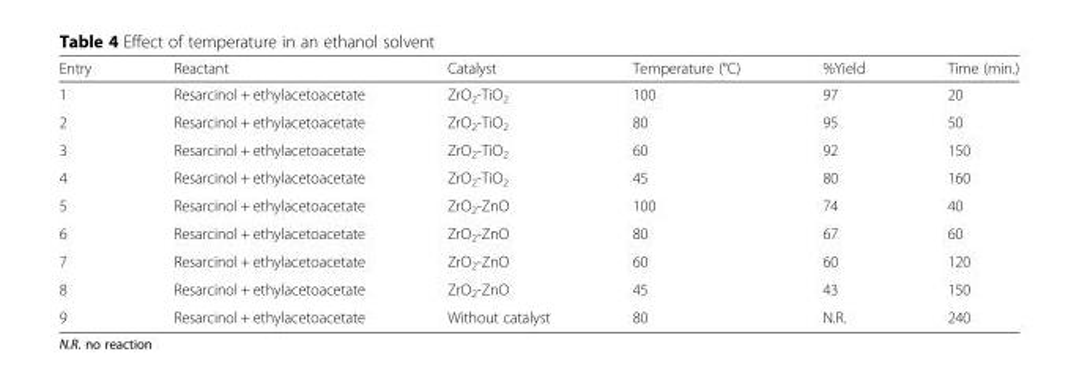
<table><thead><tr><td>Entry</td><td>Reactant</td><td>Catalyst</td><td>Temperature (°C)</td><td>%Yield</td><td>Time (min.)</td></tr></thead><tbody><tr><td>1</td><td>Resarcinol + ethylacetoacetate</td><td>ZrO<sub>2</sub>-TiO<sub>2</sub></td><td>100</td><td>97</td><td>20</td></tr><tr><td>2</td><td>Resarcinol + ethylacetoacetate</td><td>ZrO<sub>2</sub>-TiO<sub>2</sub></td><td>80</td><td>95</td><td>50</td></tr><tr><td>3</td><td>Resarcinol + ethylacetoacetate</td><td>ZrO<sub>2</sub>-TiO<sub>2</sub></td><td>60</td><td>92</td><td>150</td></tr><tr><td>4</td><td>Resarcinol + ethylacetoacetate</td><td>ZrO<sub>2</sub>-TiO<sub>2</sub></td><td>45</td><td>80</td><td>160</td></tr><tr><td>5</td><td>Resarcinol + ethylacetoacetate</td><td>ZrO<sub>2</sub>-ZnO</td><td>100</td><td>74</td><td>40</td></tr><tr><td>6</td><td>Resarcinol + ethylacetoacetate</td><td>ZrO<sub>2</sub>-ZnO</td><td>80</td><td>67</td><td>60</td></tr><tr><td>7</td><td>Resarcinol + ethylacetoacetate</td><td>ZrO<sub>2</sub>-ZnO</td><td>60</td><td>60</td><td>120</td></tr><tr><td>8</td><td>Resarcinol + ethylacetoacetate</td><td>ZrO<sub>2</sub>-ZnO</td><td>45</td><td>43</td><td>150</td></tr><tr><td>9</td><td>Resarcinol + ethylacetoacetate</td><td>Without catalyst</td><td>80</td><td>N.R.</td><td>240</td></tr></tbody></table>